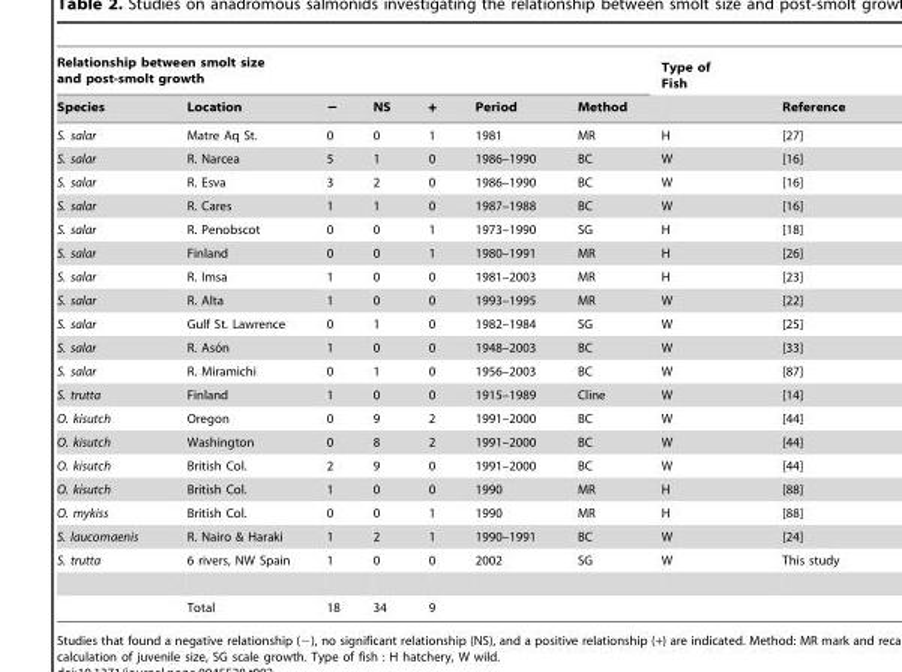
<table><thead><tr><td colspan="7">Relationship between smolt size and post-smolt growth</td><td rowspan="2">Type of Fish</td><td rowspan="2">Reference</td></tr><tr><td>Species</td><td>Location</td><td>−</td><td>NS</td><td>+</td><td>Period</td><td>Method</td></tr></thead><tbody><tr><td>S. salar</td><td>Matre Aq St.</td><td>0</td><td>0</td><td>1</td><td>1981</td><td>MR</td><td>H</td><td>[27]</td></tr><tr><td>S. salar</td><td>R. Narcea</td><td>5</td><td>1</td><td>0</td><td>1986–1990</td><td>BC</td><td>W</td><td>[16]</td></tr><tr><td>S. salar</td><td>R. Esva</td><td>3</td><td>2</td><td>0</td><td>1986–1990</td><td>BC</td><td>W</td><td>[16]</td></tr><tr><td>S. salar</td><td>R. Cares</td><td>1</td><td>1</td><td>0</td><td>1987–1988</td><td>BC</td><td>W</td><td>[16]</td></tr><tr><td>S. salar</td><td>R. Penobscot</td><td>0</td><td>0</td><td>1</td><td>1973–1990</td><td>SG</td><td>H</td><td>[18]</td></tr><tr><td>S. salar</td><td>Finland</td><td>0</td><td>0</td><td>1</td><td>1980–1991</td><td>MR</td><td>H</td><td>[26]</td></tr><tr><td>S. salar</td><td>R. Imsa</td><td>1</td><td>0</td><td>0</td><td>1981–2003</td><td>MR</td><td>H</td><td>[23]</td></tr><tr><td>S. salar</td><td>R. Alta</td><td>1</td><td>0</td><td>0</td><td>1993–1995</td><td>MR</td><td>W</td><td>[22]</td></tr><tr><td>S. salar</td><td>Gulf St. Lawrence</td><td>0</td><td>1</td><td>0</td><td>1982–1984</td><td>SG</td><td>W</td><td>[25]</td></tr><tr><td>S. salar</td><td>R. Aso´n</td><td>1</td><td>0</td><td>0</td><td>1948–2003</td><td>BC</td><td>W</td><td>[33]</td></tr><tr><td>S. salar</td><td>R. Miramichi</td><td>0</td><td>1</td><td>0</td><td>1956–2003</td><td>BC</td><td>W</td><td>[87]</td></tr><tr><td>S. trutta</td><td>Finland</td><td>1</td><td>0</td><td>0</td><td>1915–1989</td><td>Cline</td><td>W</td><td>[14]</td></tr><tr><td>O. kisutch</td><td>Oregon</td><td>0</td><td>9</td><td>2</td><td>1991–2000</td><td>BC</td><td>W</td><td>[44]</td></tr><tr><td>O. kisutch</td><td>Washington</td><td>0</td><td>8</td><td>2</td><td>1991–2000</td><td>BC</td><td>W</td><td>[44]</td></tr><tr><td>O. kisutch</td><td>British Col.</td><td>2</td><td>9</td><td>0</td><td>1991–2000</td><td>BC</td><td>W</td><td>[44]</td></tr><tr><td>O. kisutch</td><td>British Col.</td><td>1</td><td>0</td><td>0</td><td>1990</td><td>MR</td><td>H</td><td>[88]</td></tr><tr><td>O. mykiss</td><td>British Col.</td><td>0</td><td>0</td><td>1</td><td>1990</td><td>MR</td><td>H</td><td>[88]</td></tr><tr><td>S. laucomaenis</td><td>R. Nairo &amp; Haraki</td><td>1</td><td>2</td><td>1</td><td>1990–1991</td><td>BC</td><td>W</td><td>[24]</td></tr><tr><td rowspan="2">S. trutta</td><td>6 rivers, NW Spain</td><td>1</td><td>0</td><td>0</td><td>2002</td><td>SG</td><td>W</td><td>This study</td></tr><tr><td>Total</td><td>18</td><td>34</td><td>9</td><td></td><td></td><td></td><td></td></tr></tbody></table>